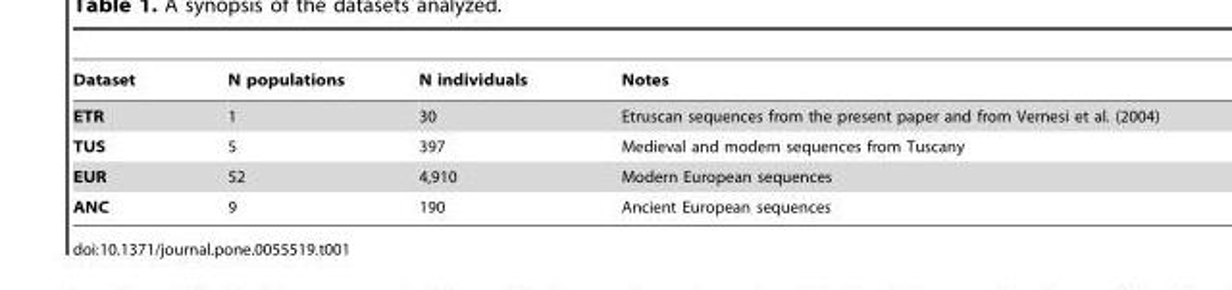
<table><thead><tr><td>Dataset</td><td>N populations</td><td>N individuals</td><td>Notes</td></tr></thead><tbody><tr><td>ETR</td><td>1</td><td>30</td><td>Etruscan sequences from the present paper and from Vernesi et al. (2004)</td></tr><tr><td>TUS</td><td>5</td><td>397</td><td>Medieval and modern sequences from Tuscany</td></tr><tr><td>EUR</td><td>52</td><td>4,910</td><td>Modern European sequences</td></tr><tr><td>ANC</td><td>9</td><td>190</td><td>Ancient European sequences</td></tr></tbody></table>